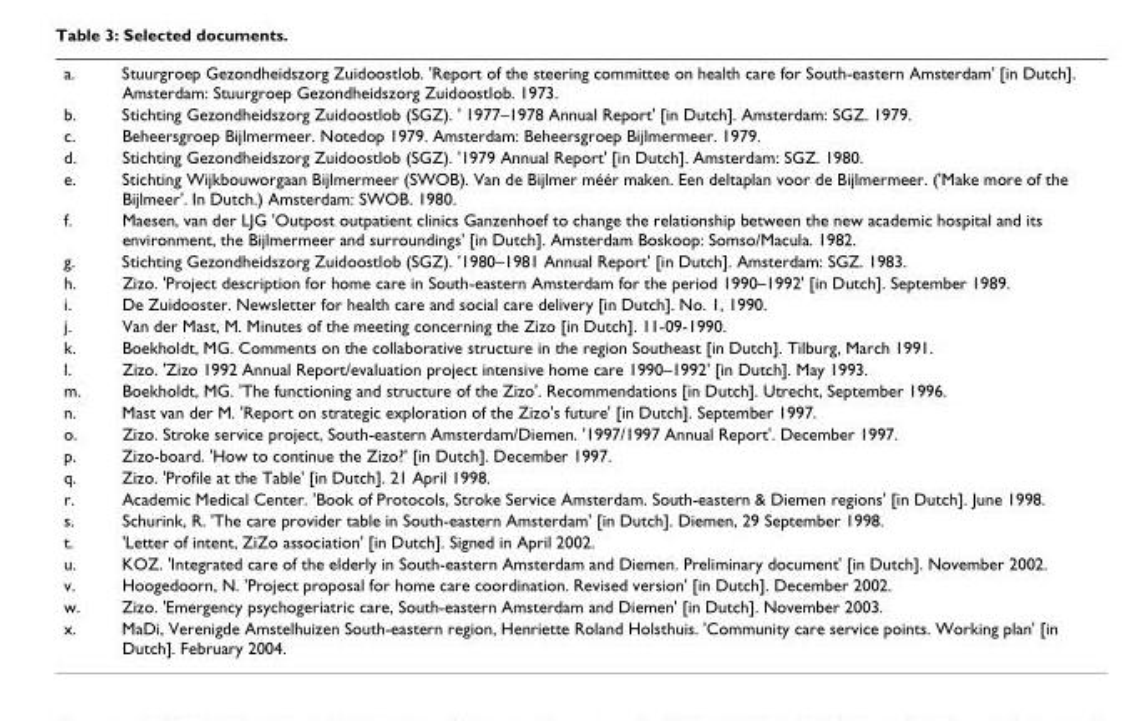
<table><tbody><tr><td>a.</td><td>Stuurgroep Gezondheidszorg Zuidoostlob. &#x27;Report of the steering committee on health care for South-eastern Amsterdam&#x27; [in Dutch]. Amsterdam: Stuurgroep Gezondheidszorg Zuidoostlob. 1973.</td></tr><tr><td>b.</td><td>Stichting Gezondheidszorg Zuidoostlob (SGZ). &#x27; 1977–1978 Annual Report&#x27; [in Dutch]. Amsterdam: SGZ. 1979.</td></tr><tr><td>c.</td><td>Beheersgroep Bijlmermeer. Notedop 1979. Amsterdam: Beheersgroep Bijlmermeer. 1979.</td></tr><tr><td>d.</td><td>Stichting Gezondheidszorg Zuidoostlob (SGZ). &#x27;1979 Annual Report&#x27; [in Dutch]. Amsterdam: SGZ. 1980.</td></tr><tr><td>e.</td><td>Stichting Wijkbouworgaan Bijlmermeer (SWOB). Van de Bijlmer méér maken. Een deltaplan voor de Bijlmermeer. (&#x27;Make more of the Bijlmeer&#x27;. In Dutch.) Amsterdam: SWOB. 1980.</td></tr><tr><td>f.</td><td>Maesen, van der LJG &#x27;Outpost outpatient clinics Ganzenhoef to change the relationship between the new academic hospital and its environment, the Bijlmermeer and surroundings&#x27; [in Dutch]. Amsterdam Boskoop: Somso/Macula. 1982.</td></tr><tr><td>g.</td><td>Stichting Gezondheidszorg Zuidoostlob (SGZ). &#x27;1980–1981 Annual Report&#x27; [in Dutch]. Amsterdam: SGZ. 1983.</td></tr><tr><td>h.</td><td>Zizo. &#x27;Project description for home care in South-eastern Amsterdam for the period 1990–1992&#x27; [in Dutch]. September 1989.</td></tr><tr><td>i.</td><td>De Zuidooster. Newsletter for health care and social care delivery [in Dutch]. No. 1, 1990.</td></tr><tr><td>j.</td><td>Van der Mast, M. Minutes of the meeting concerning the Zizo [in Dutch]. 11-09-1990.</td></tr><tr><td>k.</td><td>Boekholdt, MG. Comments on the collaborative structure in the region Southeast [in Dutch]. Tilburg, March 1991.</td></tr><tr><td>l.</td><td>Zizo. &#x27;Zizo 1992 Annual Report/evaluation project intensive home care 1990–1992&#x27; [in Dutch]. May 1993.</td></tr><tr><td>m.</td><td>Boekholdt, MG. &#x27;The functioning and structure of the Zizo&#x27;. Recommendations [in Dutch]. Utrecht, September 1996.</td></tr><tr><td>n.</td><td>Mast van der M. &#x27;Report on strategic exploration of the Zizo&#x27;s future&#x27; [in Dutch]. September 1997.</td></tr><tr><td>o.</td><td>Zizo. Stroke service project, South-eastern Amsterdam/Diemen. &#x27;1997/1997 Annual Report&#x27;. December 1997.</td></tr><tr><td>p.</td><td>Zizo-board. &#x27;How to continue the Zizo?&#x27; [in Dutch]. December 1997.</td></tr><tr><td>q.</td><td>Zizo. &#x27;Profile at the Table&#x27; [in Dutch]. 21 April 1998.</td></tr><tr><td>r.</td><td>Academic Medical Center. &#x27;Book of Protocols, Stroke Service Amsterdam. South-eastern &amp; Diemen regions&#x27; [in Dutch]. June 1998.</td></tr><tr><td>s.</td><td>Schurink, R. &#x27;The care provider table in South-eastern Amsterdam&#x27; [in Dutch]. Diemen, 29 September 1998.</td></tr><tr><td>t.</td><td>&#x27;Letter of intent, ZiZo association&#x27; [in Dutch]. Signed in April 2002.</td></tr><tr><td>u.</td><td>KOZ. &#x27;Integrated care of the elderly in South-eastern Amsterdam and Diemen. Preliminary document&#x27; [in Dutch]. November 2002.</td></tr><tr><td>v.</td><td>Hoogedoorn, N. &#x27;Project proposal for home care coordination. Revised version&#x27; [in Dutch]. December 2002.</td></tr><tr><td>w.</td><td>Zizo. &#x27;Emergency psychogeriatric care, South-eastern Amsterdam and Diemen&#x27; [in Dutch]. November 2003.</td></tr><tr><td>x.</td><td>MaDi, Verenigde Amstelhuizen South-eastern region, Henriette Roland Holsthuis. &#x27;Community care service points. Working plan&#x27; [in Dutch]. February 2004.</td></tr></tbody></table>